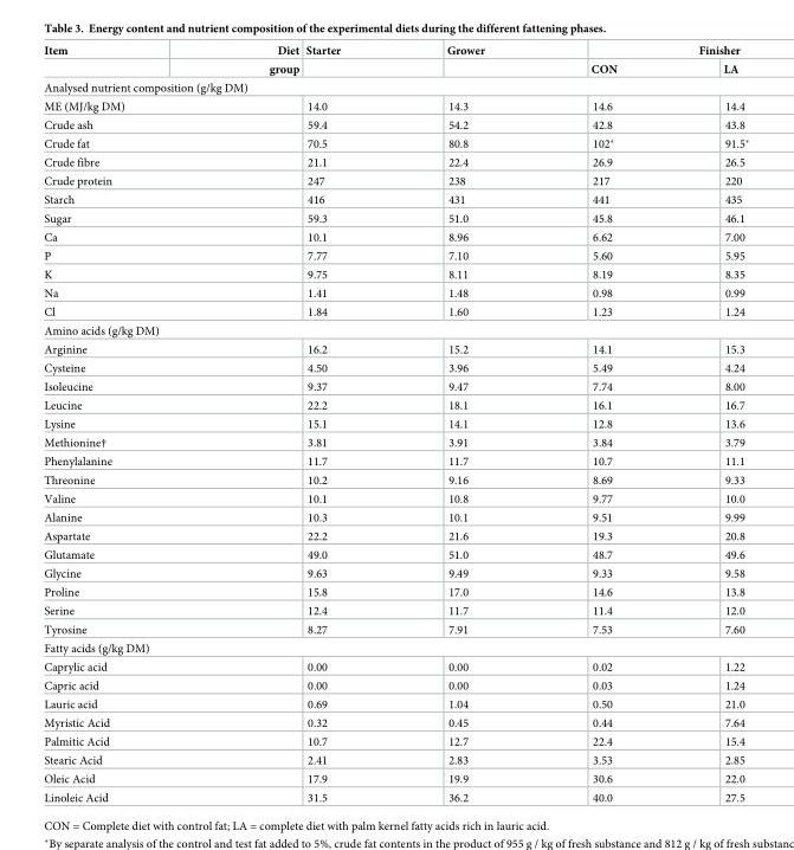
<table><thead><tr><td rowspan="2">Item</td><td rowspan="2">Diet group</td><td rowspan="2">Starter</td><td rowspan="2">Grower</td><td colspan="2">Finisher</td></tr><tr><td>CON</td><td>LA</td></tr></thead><tbody><tr><td colspan="6">Analysed nutrient composition (g/kg DM)</td></tr><tr><td colspan="2">ME (MJ/kg DM)</td><td>14.0</td><td>14.3</td><td>14.6</td><td>14.4</td></tr><tr><td colspan="2">Crude ash</td><td>59.4</td><td>54.2</td><td>42.8</td><td>43.8</td></tr><tr><td colspan="2">Crude fat</td><td>70.5</td><td>80.8</td><td>102*</td><td>91.5*</td></tr><tr><td colspan="2">Crude fibre</td><td>21.1</td><td>22.4</td><td>26.9</td><td>26.5</td></tr><tr><td colspan="2">Crude protein</td><td>247</td><td>238</td><td>217</td><td>220</td></tr><tr><td colspan="2">Starch</td><td>416</td><td>431</td><td>441</td><td>435</td></tr><tr><td colspan="2">Sugar</td><td>59.3</td><td>51.0</td><td>45.8</td><td>46.1</td></tr><tr><td colspan="2">Ca</td><td>10.1</td><td>8.96</td><td>6.62</td><td>7.00</td></tr><tr><td colspan="2">P</td><td>7.77</td><td>7.10</td><td>5.60</td><td>5.95</td></tr><tr><td colspan="2">K</td><td>9.75</td><td>8.11</td><td>8.19</td><td>8.35</td></tr><tr><td colspan="2">Na</td><td>1.41</td><td>1.48</td><td>0.98</td><td>0.99</td></tr><tr><td colspan="2">Cl</td><td>1.84</td><td>1.60</td><td>1.23</td><td>1.24</td></tr><tr><td colspan="6">Amino acids (g/kg DM)</td></tr><tr><td colspan="2">Arginine</td><td>16.2</td><td>15.2</td><td>14.1</td><td>15.3</td></tr><tr><td colspan="2">Cysteine</td><td>4.50</td><td>3.96</td><td>5.49</td><td>4.24</td></tr><tr><td colspan="2">Isoleucine</td><td>9.37</td><td>9.47</td><td>7.74</td><td>8.00</td></tr><tr><td colspan="2">Leucine</td><td>22.2</td><td>18.1</td><td>16.1</td><td>16.7</td></tr><tr><td colspan="2">Lysine</td><td>15.1</td><td>14.1</td><td>12.8</td><td>13.6</td></tr><tr><td colspan="2">Methionine†</td><td>3.81</td><td>3.91</td><td>3.84</td><td>3.79</td></tr><tr><td colspan="2">Phenylalanine</td><td>11.7</td><td>11.7</td><td>10.7</td><td>11.1</td></tr><tr><td colspan="2">Threonine</td><td>10.2</td><td>9.16</td><td>8.69</td><td>9.33</td></tr><tr><td colspan="2">Valine</td><td>10.1</td><td>10.8</td><td>9.77</td><td>10.0</td></tr><tr><td colspan="2">Alanine</td><td>10.3</td><td>10.1</td><td>9.51</td><td>9.99</td></tr><tr><td colspan="2">Aspartate</td><td>22.2</td><td>21.6</td><td>19.3</td><td>20.8</td></tr><tr><td colspan="2">Glutamate</td><td>49.0</td><td>51.0</td><td>48.7</td><td>49.6</td></tr><tr><td colspan="2">Glycine</td><td>9.63</td><td>9.49</td><td>9.33</td><td>9.58</td></tr><tr><td colspan="2">Proline</td><td>15.8</td><td>17.0</td><td>14.6</td><td>13.8</td></tr><tr><td colspan="2">Serine</td><td>12.4</td><td>11.7</td><td>11.4</td><td>12.0</td></tr><tr><td colspan="2">Tyrosine</td><td>8.27</td><td>7.91</td><td>7.53</td><td>7.60</td></tr><tr><td colspan="6">Fatty acids (g/kg DM)</td></tr><tr><td colspan="2">Caprylic acid</td><td>0.00</td><td>0.00</td><td>0.02</td><td>1.22</td></tr><tr><td colspan="2">Capric acid</td><td>0.00</td><td>0.00</td><td>0.03</td><td>1.24</td></tr><tr><td colspan="2">Lauric acid</td><td>0.69</td><td>1.04</td><td>0.50</td><td>21.0</td></tr><tr><td colspan="2">Myristic Acid</td><td>0.32</td><td>0.45</td><td>0.44</td><td>7.64</td></tr><tr><td colspan="2">Palmitic Acid</td><td>10.7</td><td>12.7</td><td>22.4</td><td>15.4</td></tr><tr><td colspan="2">Stearic Acid</td><td>2.41</td><td>2.83</td><td>3.53</td><td>2.85</td></tr><tr><td colspan="2">Oleic Acid</td><td>17.9</td><td>19.9</td><td>30.6</td><td>22.0</td></tr><tr><td colspan="2">Linoleic Acid</td><td>31.5</td><td>36.2</td><td>40.0</td><td>27.5</td></tr></tbody></table>